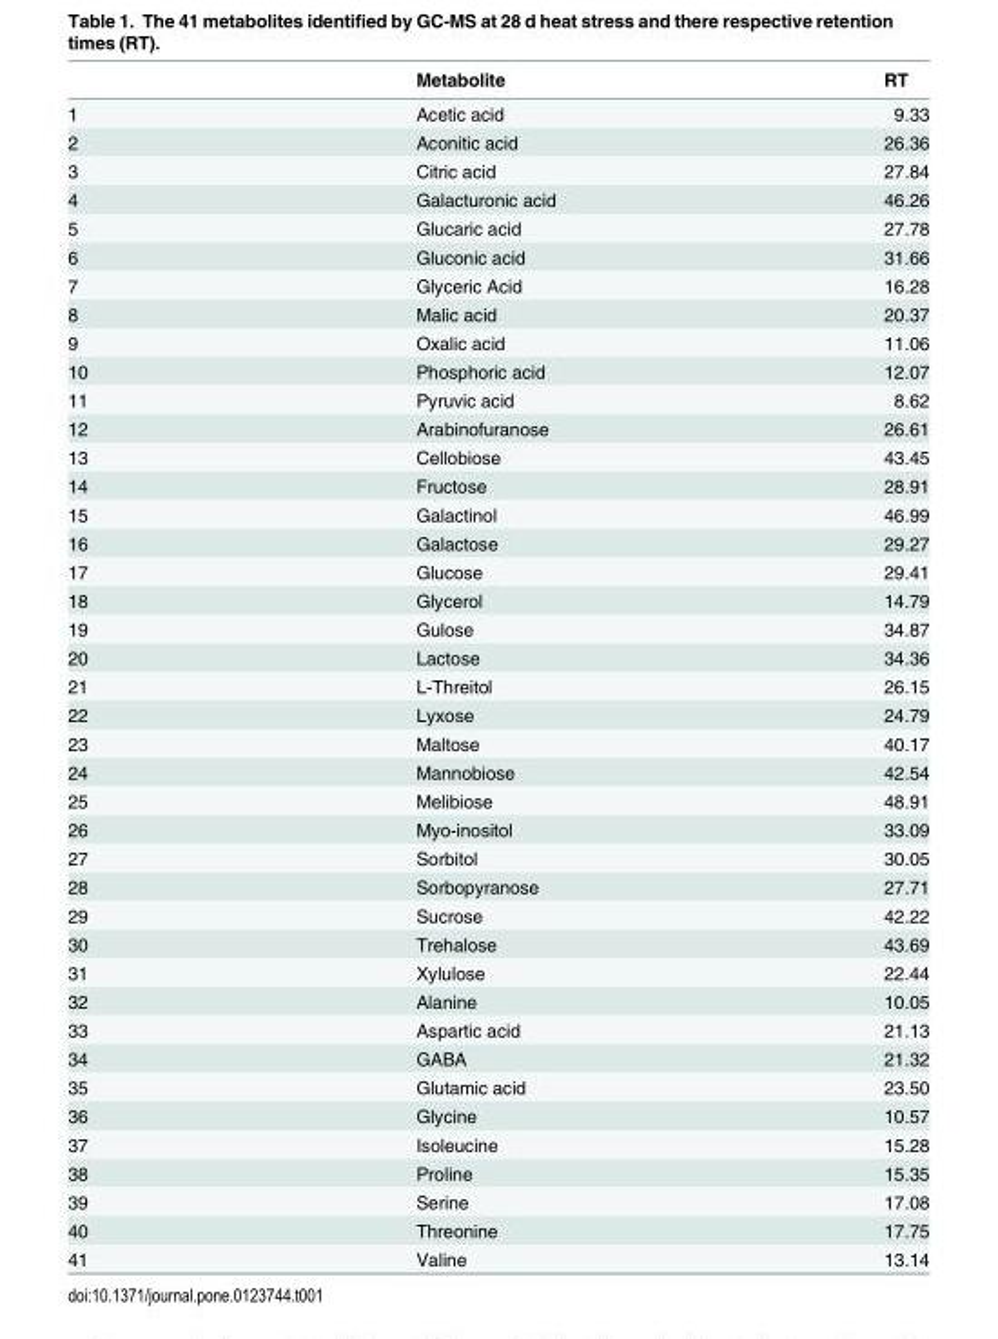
<table><thead><tr><td></td><td>Metabolite</td><td>RT</td></tr></thead><tbody><tr><td>1</td><td>Acetic acid</td><td>9.33</td></tr><tr><td>2</td><td>Aconitic acid</td><td>26.36</td></tr><tr><td>3</td><td>Citric acid</td><td>27.84</td></tr><tr><td>4</td><td>Galacturonic acid</td><td>46.26</td></tr><tr><td>5</td><td>Glucaric acid</td><td>27.78</td></tr><tr><td>6</td><td>Gluconic acid</td><td>31.66</td></tr><tr><td>7</td><td>Glyceric Acid</td><td>16.28</td></tr><tr><td>8</td><td>Malic acid</td><td>20.37</td></tr><tr><td>9</td><td>Oxalic acid</td><td>11.06</td></tr><tr><td>10</td><td>Phosphoric acid</td><td>12.07</td></tr><tr><td>11</td><td>Pyruvic acid</td><td>8.62</td></tr><tr><td>12</td><td>Arabinofuranose</td><td>26.61</td></tr><tr><td>13</td><td>Cellobiose</td><td>43.45</td></tr><tr><td>14</td><td>Fructose</td><td>28.91</td></tr><tr><td>15</td><td>Galactinol</td><td>46.99</td></tr><tr><td>16</td><td>Galactose</td><td>29.27</td></tr><tr><td>17</td><td>Glucose</td><td>29.41</td></tr><tr><td>18</td><td>Glycerol</td><td>14.79</td></tr><tr><td>19</td><td>Gulose</td><td>34.87</td></tr><tr><td>20</td><td>Lactose</td><td>34.36</td></tr><tr><td>21</td><td>L-Threitol</td><td>26.15</td></tr><tr><td>22</td><td>Lyxose</td><td>24.79</td></tr><tr><td>23</td><td>Maltose</td><td>40.17</td></tr><tr><td>24</td><td>Mannobiose</td><td>42.54</td></tr><tr><td>25</td><td>Melibiose</td><td>48.91</td></tr><tr><td>26</td><td>Myo-inositol</td><td>33.09</td></tr><tr><td>27</td><td>Sorbitol</td><td>30.05</td></tr><tr><td>28</td><td>Sorbopyranose</td><td>27.71</td></tr><tr><td>29</td><td>Sucrose</td><td>42.22</td></tr><tr><td>30</td><td>Trehalose</td><td>43.69</td></tr><tr><td>31</td><td>Xylulose</td><td>22.44</td></tr><tr><td>32</td><td>Alanine</td><td>10.05</td></tr><tr><td>33</td><td>Aspartic acid</td><td>21.13</td></tr><tr><td>34</td><td>GABA</td><td>21.32</td></tr><tr><td>35</td><td>Glutamic acid</td><td>23.50</td></tr><tr><td>36</td><td>Glycine</td><td>10.57</td></tr><tr><td>37</td><td>Isoleucine</td><td>15.28</td></tr><tr><td>38</td><td>Proline</td><td>15.35</td></tr><tr><td>39</td><td>Serine</td><td>17.08</td></tr><tr><td>40</td><td>Threonine</td><td>17.75</td></tr><tr><td>41</td><td>Valine</td><td>13.14</td></tr></tbody></table>